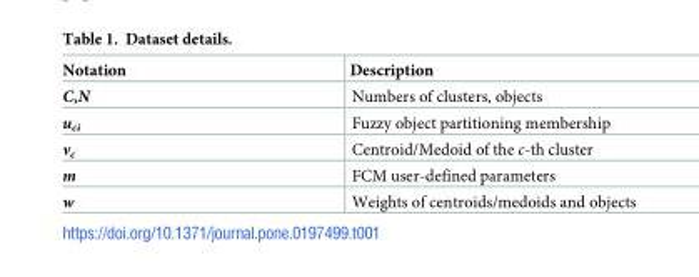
<table><thead><tr><td>Notation</td><td>Description</td></tr></thead><tbody><tr><td>C,N</td><td>Numbers of clusters, objects</td></tr><tr><td>u<sub>ci</sub></td><td>Fuzzy object partitioning membership</td></tr><tr><td>v<sub>c</sub></td><td>Centroid/Medoid of the c-th cluster</td></tr><tr><td>m</td><td>FCM user-defined parameters</td></tr><tr><td>w</td><td>Weights of centroids/medoids and objects</td></tr></tbody></table>